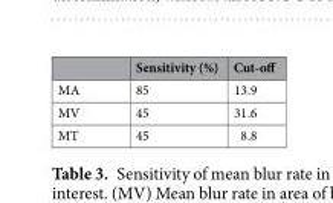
<table><thead><tr><td></td><td>Sensitivity (%)</td><td>Cut-off</td></tr></thead><tbody><tr><td>MA</td><td>85</td><td>13.9</td></tr><tr><td>MV</td><td>45</td><td>31.6</td></tr><tr><td>MT</td><td>45</td><td>8.8</td></tr></tbody></table>